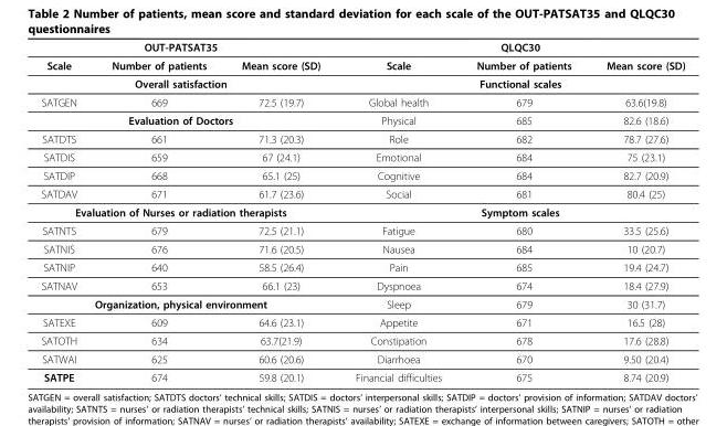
<table><thead><tr><td colspan="3">OUT-PATSAT35</td><td colspan="3">QLQC30</td></tr><tr><td>Scale</td><td>Number of patients</td><td>Mean score (SD)</td><td>Scale</td><td>Number of patients</td><td>Mean score (SD)</td></tr></thead><tbody><tr><td colspan="3">Overall satisfaction</td><td colspan="3">Functional scales</td></tr><tr><td>SATGEN</td><td>669</td><td>72.5 (19.7)</td><td>Global health</td><td>679</td><td>63.6(19.8)</td></tr><tr><td colspan="3">Evaluation of Doctors</td><td>Physical</td><td>685</td><td>82.6 (18.6)</td></tr><tr><td>SATDTS</td><td>661</td><td>71.3 (20.3)</td><td>Role</td><td>682</td><td>78.7 (27.6)</td></tr><tr><td>SATDIS</td><td>659</td><td>67 (24.1)</td><td>Emotional</td><td>684</td><td>75 (23.1)</td></tr><tr><td>SATDIP</td><td>668</td><td>65.1 (25)</td><td>Cognitive</td><td>684</td><td>82.7 (20.9)</td></tr><tr><td>SATDAV</td><td>671</td><td>61.7 (23.6)</td><td>Social</td><td>681</td><td>80.4 (25)</td></tr><tr><td colspan="3">Evaluation of Nurses or radiation therapists</td><td colspan="3">Symptom scales</td></tr><tr><td>SATNTS</td><td>679</td><td>72.5 (21.1)</td><td>Fatigue</td><td>680</td><td>33.5 (25.6)</td></tr><tr><td>SATNIS</td><td>676</td><td>71.6 (20.5)</td><td>Nausea</td><td>684</td><td>10 (20.7)</td></tr><tr><td>SATNIP</td><td>640</td><td>58.5 (26.4)</td><td>Pain</td><td>685</td><td>19.4 (24.7)</td></tr><tr><td>SATNAV</td><td>653</td><td>66.1 (23)</td><td>Dyspnoea</td><td>674</td><td>18.4 (27.9)</td></tr><tr><td colspan="3">Organization, physical environment</td><td>Sleep</td><td>679</td><td>30 (31.7)</td></tr><tr><td>SATEXE</td><td>609</td><td>64.6 (23.1)</td><td>Appetite</td><td>671</td><td>16.5 (28)</td></tr><tr><td>SATOTH</td><td>634</td><td>63.7(21.9)</td><td>Constipation</td><td>678</td><td>17.6 (28.8)</td></tr><tr><td>SATWAI</td><td>625</td><td>60.6 (20.6)</td><td>Diarrhoea</td><td>670</td><td>9.50 (20.4)</td></tr><tr><td>SATPE</td><td>674</td><td>59.8 (20.1)</td><td>Financial difficulties</td><td>675</td><td>8.74 (20.9)</td></tr></tbody></table>